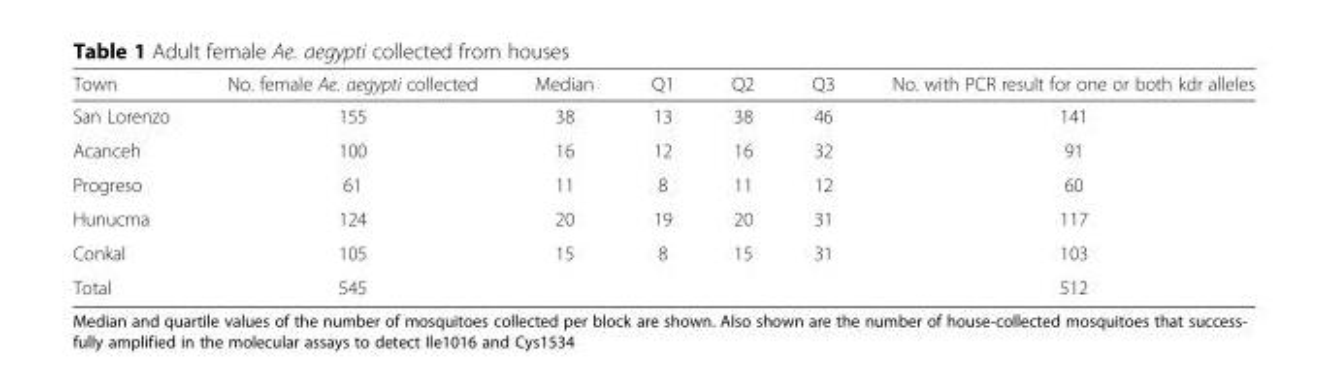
<table><thead><tr><td>Town</td><td>No. female Ae. aegypti collected</td><td>Median</td><td>Q1</td><td>Q2</td><td>Q3</td><td>No. with PCR result for one or both kdr alleles</td></tr></thead><tbody><tr><td>San Lorenzo</td><td>155</td><td>38</td><td>13</td><td>38</td><td>46</td><td>141</td></tr><tr><td>Acanceh</td><td>100</td><td>16</td><td>12</td><td>16</td><td>32</td><td>91</td></tr><tr><td>Progreso</td><td>61</td><td>11</td><td>8</td><td>11</td><td>12</td><td>60</td></tr><tr><td>Hunucma</td><td>124</td><td>20</td><td>19</td><td>20</td><td>31</td><td>117</td></tr><tr><td>Conkal</td><td>105</td><td>15</td><td>8</td><td>15</td><td>31</td><td>103</td></tr><tr><td>Total</td><td>545</td><td></td><td></td><td></td><td></td><td>512</td></tr></tbody></table>